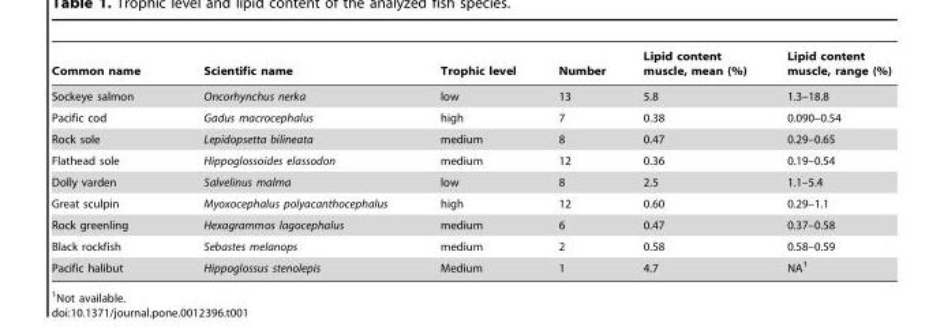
<table><thead><tr><td>Common name</td><td>Scientific name</td><td>Trophic level</td><td>Number</td><td>Lipid content muscle, mean (%)</td><td>Lipid content muscle, range (%)</td></tr></thead><tbody><tr><td>Sockeye salmon</td><td>Oncorhynchus nerka</td><td>low</td><td>13</td><td>5.8</td><td>1.3–18.8</td></tr><tr><td>Pacific cod</td><td>Gadus macrocephalus</td><td>high</td><td>7</td><td>0.38</td><td>0.090–0.54</td></tr><tr><td>Rock sole</td><td>Lepidopsetta bilineata</td><td>medium</td><td>8</td><td>0.47</td><td>0.29–0.65</td></tr><tr><td>Flathead sole</td><td>Hippoglossoides elassodon</td><td>medium</td><td>12</td><td>0.36</td><td>0.19–0.54</td></tr><tr><td>Dolly varden</td><td>Salvelinus malma</td><td>low</td><td>8</td><td>2.5</td><td>1.1–5.4</td></tr><tr><td>Great sculpin</td><td>Myoxocephalus polyacanthocephalus</td><td>high</td><td>12</td><td>0.60</td><td>0.29–1.1</td></tr><tr><td>Rock greenling</td><td>Hexagrammos lagocephalus</td><td>medium</td><td>6</td><td>0.47</td><td>0.37–0.58</td></tr><tr><td>Black rockfish</td><td>Sebastes melanops</td><td>medium</td><td>2</td><td>0.58</td><td>0.58–0.59</td></tr><tr><td>Pacific halibut</td><td>Hippoglossus stenolepis</td><td>Medium</td><td>1</td><td>4.7</td><td>NA<sup>1</sup></td></tr></tbody></table>